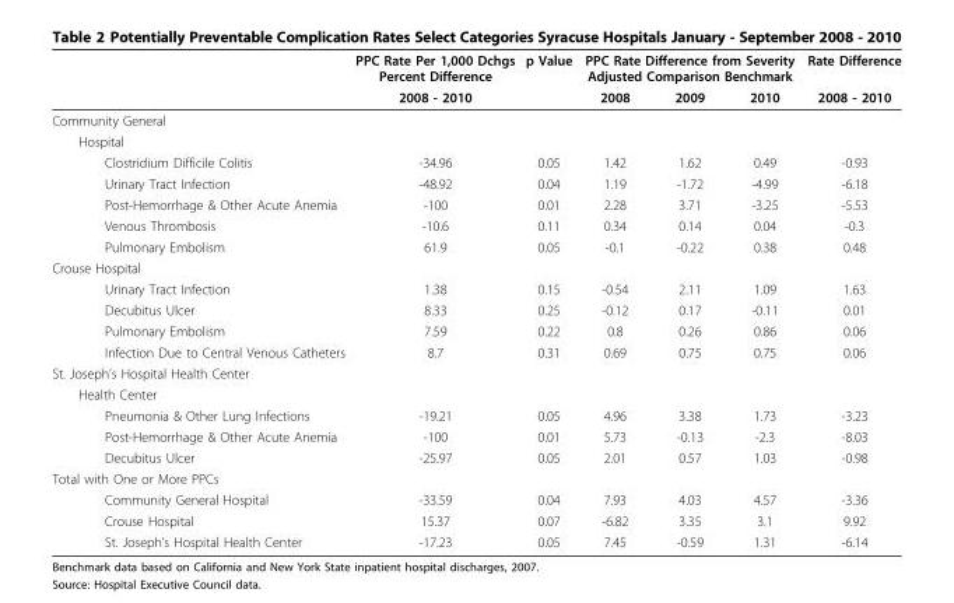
<table><thead><tr><td rowspan="2"></td><td rowspan="2">PPC Rate Per 1,000 Dchgs Percent Difference 2008 - 2010</td><td rowspan="2">p Value</td><td colspan="3">PPC Rate Difference from Severity Adjusted Comparison Benchmark</td><td rowspan="2">Rate Difference 2008 - 2010</td></tr><tr><td>2008</td><td>2009</td><td>2010</td></tr></thead><tbody><tr><td colspan="7">Community General</td></tr><tr><td colspan="7">Hospital</td></tr><tr><td>Clostridium Difficile Colitis</td><td>-34.96</td><td>0.05</td><td>1.42</td><td>1.62</td><td>0.49</td><td>-0.93</td></tr><tr><td>Urinary Tract Infection</td><td>-48.92</td><td>0.04</td><td>1.19</td><td>-1.72</td><td>-4.99</td><td>-6.18</td></tr><tr><td>Post-Hemorrhage &amp; Other Acute Anemia</td><td>-100</td><td>0.01</td><td>2.28</td><td>3.71</td><td>-3.25</td><td>-5.53</td></tr><tr><td>Venous Thrombosis</td><td>-10.6</td><td>0.11</td><td>0.34</td><td>0.14</td><td>0.04</td><td>-0.3</td></tr><tr><td>Pulmonary Embolism</td><td>61.9</td><td>0.05</td><td>-0.1</td><td>-0.22</td><td>0.38</td><td>0.48</td></tr><tr><td colspan="7">Crouse Hospital</td></tr><tr><td>Urinary Tract Infection</td><td>1.38</td><td>0.15</td><td>-0.54</td><td>2.11</td><td>1.09</td><td>1.63</td></tr><tr><td>Decubitus Ulcer</td><td>8.33</td><td>0.25</td><td>-0.12</td><td>0.17</td><td>-0.11</td><td>0.01</td></tr><tr><td>Pulmonary Embolism</td><td>7.59</td><td>0.22</td><td>0.8</td><td>0.26</td><td>0.86</td><td>0.06</td></tr><tr><td>Infection Due to Central Venous Catheters</td><td>8.7</td><td>0.31</td><td>0.69</td><td>0.75</td><td>0.75</td><td>0.06</td></tr><tr><td colspan="7">St. Joseph’s Hospital Health Center</td></tr><tr><td colspan="7">Health Center</td></tr><tr><td>Pneumonia &amp; Other Lung Infections</td><td>-19.21</td><td>0.05</td><td>4.96</td><td>3.38</td><td>1.73</td><td>-3.23</td></tr><tr><td>Post-Hemorrhage &amp; Other Acute Anemia</td><td>-100</td><td>0.01</td><td>5.73</td><td>-0.13</td><td>-2.3</td><td>-8.03</td></tr><tr><td>Decubitus Ulcer</td><td>-25.97</td><td>0.05</td><td>2.01</td><td>0.57</td><td>1.03</td><td>-0.98</td></tr><tr><td colspan="7">Total with One or More PPCs</td></tr><tr><td>Community General Hospital</td><td>-33.59</td><td>0.04</td><td>7.93</td><td>4.03</td><td>4.57</td><td>-3.36</td></tr><tr><td>Crouse Hospital</td><td>15.37</td><td>0.07</td><td>-6.82</td><td>3.35</td><td>3.1</td><td>9.92</td></tr><tr><td>St. Joseph’s Hospital Health Center</td><td>-17.23</td><td>0.05</td><td>7.45</td><td>-0.59</td><td>1.31</td><td>-6.14</td></tr></tbody></table>